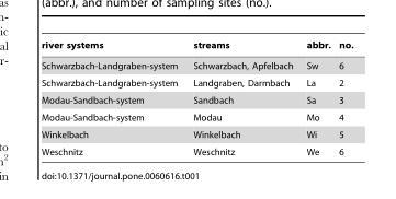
<table><thead><tr><td>river systems</td><td>streams</td><td>abbr.</td><td>no.</td></tr></thead><tbody><tr><td>Schwarzbach-Landgraben-system</td><td>Schwarzbach, Apfelbach</td><td>Sw</td><td>6</td></tr><tr><td>Schwarzbach-Landgraben-system</td><td>Landgraben, Darmbach</td><td>La</td><td>2</td></tr><tr><td>Modau-Sandbach-system</td><td>Sandbach</td><td>Sa</td><td>3</td></tr><tr><td>Modau-Sandbach-system</td><td>Modau</td><td>Mo</td><td>4</td></tr><tr><td>Winkelbach</td><td>Winkelbach</td><td>Wi</td><td>5</td></tr><tr><td>Weschnitz</td><td>Weschnitz</td><td>We</td><td>6</td></tr></tbody></table>